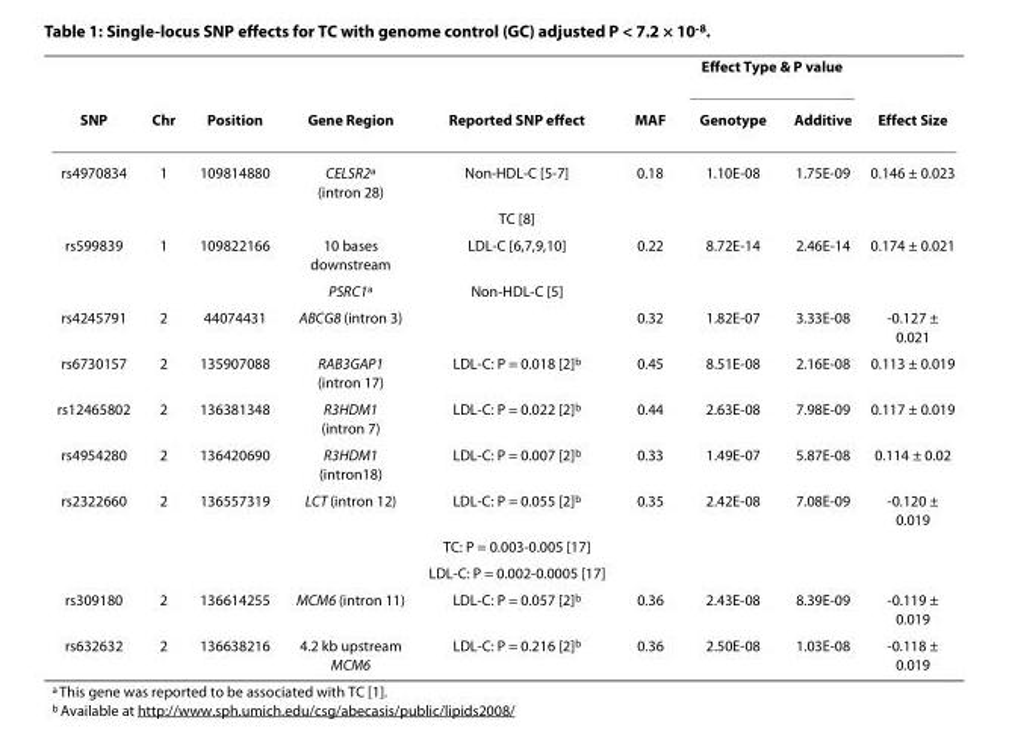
<table><thead><tr><td rowspan="2">SNP</td><td rowspan="2">Chr</td><td rowspan="2">Position</td><td rowspan="2">Gene Region</td><td rowspan="2">Reported SNP effect</td><td rowspan="2">MAF</td><td colspan="2">Effect Type &amp; P value</td><td rowspan="2">Effect Size</td></tr><tr><td>Genotype</td><td>Additive</td></tr></thead><tbody><tr><td rowspan="2">rs4970834</td><td>1</td><td>109814880</td><td>CELSR2<sup>a</sup> (intron 28)</td><td>Non-HDL-C [5-7]</td><td>0.18</td><td>1.10E-08</td><td>1.75E-09</td><td>0.146 ± 0.023</td></tr><tr><td></td><td></td><td></td><td>TC [8]</td><td></td><td></td><td></td><td></td></tr><tr><td rowspan="2">rs599839</td><td>1</td><td>109822166</td><td>10 bases downstream</td><td>LDL-C [6,7,9,10]</td><td>0.22</td><td>8.72E-14</td><td>2.46E-14</td><td>0.174 ± 0.021</td></tr><tr><td></td><td></td><td>PSRC1<sup>a</sup></td><td>Non-HDL-C [5]</td><td></td><td></td><td></td><td></td></tr><tr><td>rs4245791</td><td>2</td><td>44074431</td><td>ABCG8 (intron 3)</td><td></td><td>0.32</td><td>1.82E-07</td><td>3.33E-08</td><td>-0.127 ± 0.021</td></tr><tr><td>rs6730157</td><td>2</td><td>135907088</td><td>RAB3GAP1 (intron 17)</td><td>LDL-C: P = 0.018 [2]<sup>b</sup></td><td>0.45</td><td>8.51E-08</td><td>2.16E-08</td><td>0.113 ± 0.019</td></tr><tr><td>rs12465802</td><td>2</td><td>136381348</td><td>R3HDM1 (intron 7)</td><td>LDL-C: P = 0.022 [2]<sup>b</sup></td><td>0.44</td><td>2.63E-08</td><td>7.98E-09</td><td>0.117 ± 0.019</td></tr><tr><td>rs4954280</td><td>2</td><td>136420690</td><td>R3HDM1 (intron18)</td><td>LDL-C: P = 0.007 [2]<sup>b</sup></td><td>0.33</td><td>1.49E-07</td><td>5.87E-08</td><td>0.114 ± 0.02</td></tr><tr><td rowspan="3">rs2322660</td><td>2</td><td>136557319</td><td>LCT (intron 12)</td><td>LDL-C: P = 0.055 [2]<sup>b</sup></td><td>0.35</td><td>2.42E-08</td><td>7.08E-09</td><td>-0.120 ± 0.019</td></tr><tr><td></td><td></td><td></td><td>TC: P = 0.003-0.005 [17]</td><td></td><td></td><td></td><td></td></tr><tr><td></td><td></td><td></td><td>LDL-C: P = 0.002-0.0005 [17]</td><td></td><td></td><td></td><td></td></tr><tr><td>rs309180</td><td>2</td><td>136614255</td><td>MCM6 (intron 11)</td><td>LDL-C: P = 0.057 [2]<sup>b</sup></td><td>0.36</td><td>2.43E-08</td><td>8.39E-09</td><td>-0.119 ± 0.019</td></tr><tr><td>rs632632</td><td>2</td><td>136638216</td><td>4.2 kb upstream MCM6</td><td>LDL-C: P = 0.216 [2]<sup>b</sup></td><td>0.36</td><td>2.50E-08</td><td>1.03E-08</td><td>-0.118 ± 0.019</td></tr></tbody></table>